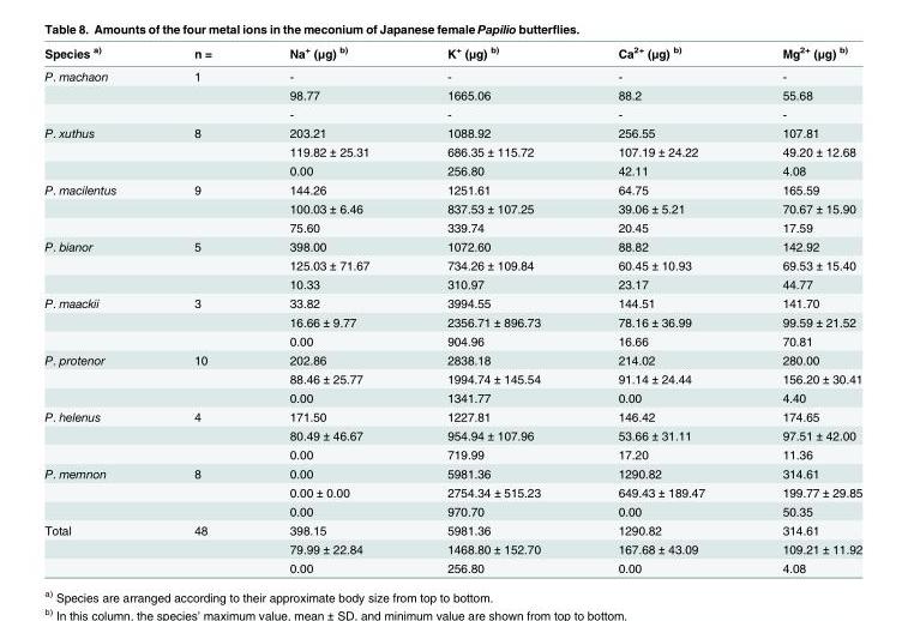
<table><thead><tr><td>Species <sup>a)</sup></td><td>n =</td><td>Na<sup>+</sup> (μg) <sup>b)</sup></td><td>K<sup>+</sup> (μg) <sup>b)</sup></td><td>Ca<sup>2+</sup> (μg) <sup>b)</sup></td><td>Mg<sup>2+</sup> (μg) <sup>b)</sup></td></tr></thead><tbody><tr><td rowspan="3">P. machaon</td><td>1</td><td>-</td><td>-</td><td>-</td><td>-</td></tr><tr><td></td><td>98.77</td><td>1665.06</td><td>88.2</td><td>55.68</td></tr><tr><td></td><td>-</td><td>-</td><td>-</td><td>-</td></tr><tr><td rowspan="3">P. xuthus</td><td>8</td><td>203.21</td><td>1088.92</td><td>256.55</td><td>107.81</td></tr><tr><td></td><td>119.82 ± 25.31</td><td>686.35 ± 115.72</td><td>107.19 ± 24.22</td><td>49.20 ± 12.68</td></tr><tr><td></td><td>0.00</td><td>256.80</td><td>42.11</td><td>4.08</td></tr><tr><td rowspan="3">P. macilentus</td><td>9</td><td>144.26</td><td>1251.61</td><td>64.75</td><td>165.59</td></tr><tr><td></td><td>100.03 ± 6.46</td><td>837.53 ± 107.25</td><td>39.06 ± 5.21</td><td>70.67 ± 15.90</td></tr><tr><td></td><td>75.60</td><td>339.74</td><td>20.45</td><td>17.59</td></tr><tr><td rowspan="3">P. bianor</td><td>5</td><td>398.00</td><td>1072.60</td><td>88.82</td><td>142.92</td></tr><tr><td></td><td>125.03 ± 71.67</td><td>734.26 ± 109.84</td><td>60.45 ± 10.93</td><td>69.53 ± 15.40</td></tr><tr><td></td><td>10.33</td><td>310.97</td><td>23.17</td><td>44.77</td></tr><tr><td rowspan="3">P. maackii</td><td>3</td><td>33.82</td><td>3994.55</td><td>144.51</td><td>141.70</td></tr><tr><td></td><td>16.66 ± 9.77</td><td>2356.71 ± 896.73</td><td>78.16 ± 36.99</td><td>99.59 ± 21.52</td></tr><tr><td></td><td>0.00</td><td>904.96</td><td>16.66</td><td>70.81</td></tr><tr><td rowspan="3">P. protenor</td><td>10</td><td>202.86</td><td>2838.18</td><td>214.02</td><td>280.00</td></tr><tr><td></td><td>88.46 ± 25.77</td><td>1994.74 ± 145.54</td><td>91.14 ± 24.44</td><td>156.20 ± 30.41</td></tr><tr><td></td><td>0.00</td><td>1341.77</td><td>0.00</td><td>4.40</td></tr><tr><td rowspan="3">P. helenus</td><td>4</td><td>171.50</td><td>1227.81</td><td>146.42</td><td>174.65</td></tr><tr><td></td><td>80.49 ± 46.67</td><td>954.94 ± 107.96</td><td>53.66 ± 31.11</td><td>97.51 ± 42.00</td></tr><tr><td></td><td>0.00</td><td>719.99</td><td>17.20</td><td>11.36</td></tr><tr><td rowspan="3">P. memnon</td><td>8</td><td>0.00</td><td>5981.36</td><td>1290.82</td><td>314.61</td></tr><tr><td></td><td>0.00 ± 0.00</td><td>2754.34 ± 515.23</td><td>649.43 ± 189.47</td><td>199.77 ± 29.85</td></tr><tr><td></td><td>0.00</td><td>970.70</td><td>0.00</td><td>50.35</td></tr><tr><td rowspan="3">Total</td><td>48</td><td>398.15</td><td>5981.36</td><td>1290.82</td><td>314.61</td></tr><tr><td></td><td>79.99 ± 22.84</td><td>1468.80 ± 152.70</td><td>167.68 ± 43.09</td><td>109.21 ± 11.92</td></tr><tr><td></td><td>0.00</td><td>256.80</td><td>0.00</td><td>4.08</td></tr></tbody></table>